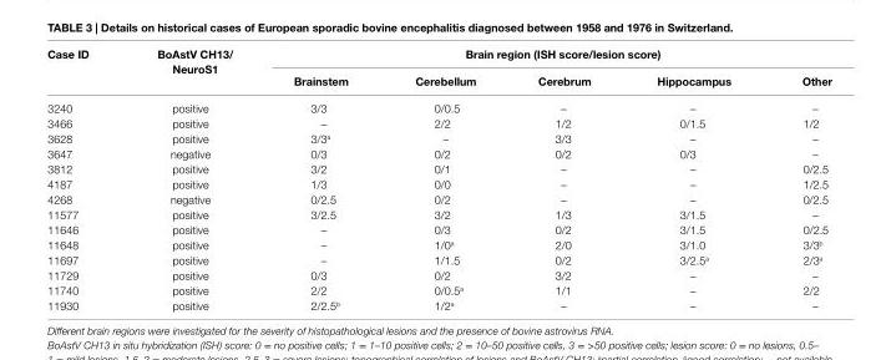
<table><thead><tr><td rowspan="2">case iD</td><td rowspan="2">BoastV ch13/ neuros1</td><td colspan="5">Brain region (ish score/lesion score)</td></tr><tr><td>Brainstem</td><td>cerebellum</td><td>cerebrum</td><td>hippocampus</td><td>Other</td></tr></thead><tbody><tr><td>3240</td><td>positive</td><td>3/3</td><td>0/0.5</td><td>–</td><td>–</td><td>–</td></tr><tr><td>3466</td><td>positive</td><td>–</td><td>2/2</td><td>1/2</td><td>0/1.5</td><td>1/2</td></tr><tr><td>3628</td><td>positive</td><td>3/3<sup>a</sup></td><td>–</td><td>3/3</td><td>–</td><td>–</td></tr><tr><td>3647</td><td>negative</td><td>0/3</td><td>0/2</td><td>0/2</td><td>0/3</td><td>–</td></tr><tr><td>3812</td><td>positive</td><td>3/2</td><td>0/1</td><td>–</td><td>–</td><td>0/2.5</td></tr><tr><td>4187</td><td>positive</td><td>1/3</td><td>0/0</td><td>–</td><td>–</td><td>1/2.5</td></tr><tr><td>4268</td><td>negative</td><td>0/2.5</td><td>0/2</td><td>–</td><td>–</td><td>0/2.5</td></tr><tr><td>11577</td><td>positive</td><td>3/2.5</td><td>3/2</td><td>1/3</td><td>3/1.5</td><td>–</td></tr><tr><td>11646</td><td>positive</td><td>–</td><td>0/3</td><td>0/2</td><td>3/1.5</td><td>0/2.5</td></tr><tr><td>11648</td><td>positive</td><td>–</td><td>1/0<sup>a</sup></td><td>2/0</td><td>3/1.0</td><td>3/3<sup>b</sup></td></tr><tr><td>11697</td><td>positive</td><td>–</td><td>1/1.5</td><td>0/2</td><td>3/2.5<sup>a</sup></td><td>2/3<sup>a</sup></td></tr><tr><td>11729</td><td>positive</td><td>0/3</td><td>0/2</td><td>3/2</td><td>–</td><td>–</td></tr><tr><td>11740</td><td>positive</td><td>2/2</td><td>0/0.5<sup>a</sup></td><td>1/1</td><td>–</td><td>2/2</td></tr><tr><td>11930</td><td>positive</td><td>2/2.5<sup>b</sup></td><td>1/2<sup>a</sup></td><td>–</td><td>–</td><td>–</td></tr></tbody></table>